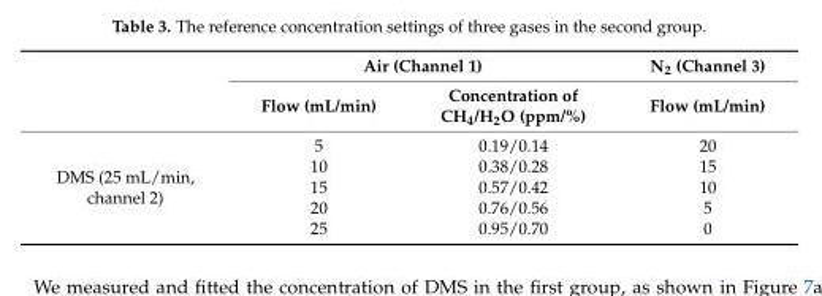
<table><thead><tr><td rowspan="2"></td><td colspan="2">Air (Channel 1)</td><td rowspan="2">N<sub>2</sub> (Channel 3) Flow (mL/min)</td></tr><tr><td>Flow (mL/min)</td><td>Concentration of CH<sub>4</sub>/H<sub>2</sub>O (ppm/%)</td></tr></thead><tbody><tr><td rowspan="5">DMS (25 mL/min, channel 2)</td><td>5</td><td>0.19/0.14</td><td>20</td></tr><tr><td>10</td><td>0.38/0.28</td><td>15</td></tr><tr><td>15</td><td>0.57/0.42</td><td>10</td></tr><tr><td>20</td><td>0.76/0.56</td><td>5</td></tr><tr><td>25</td><td>0.95/0.70</td><td>0</td></tr></tbody></table>